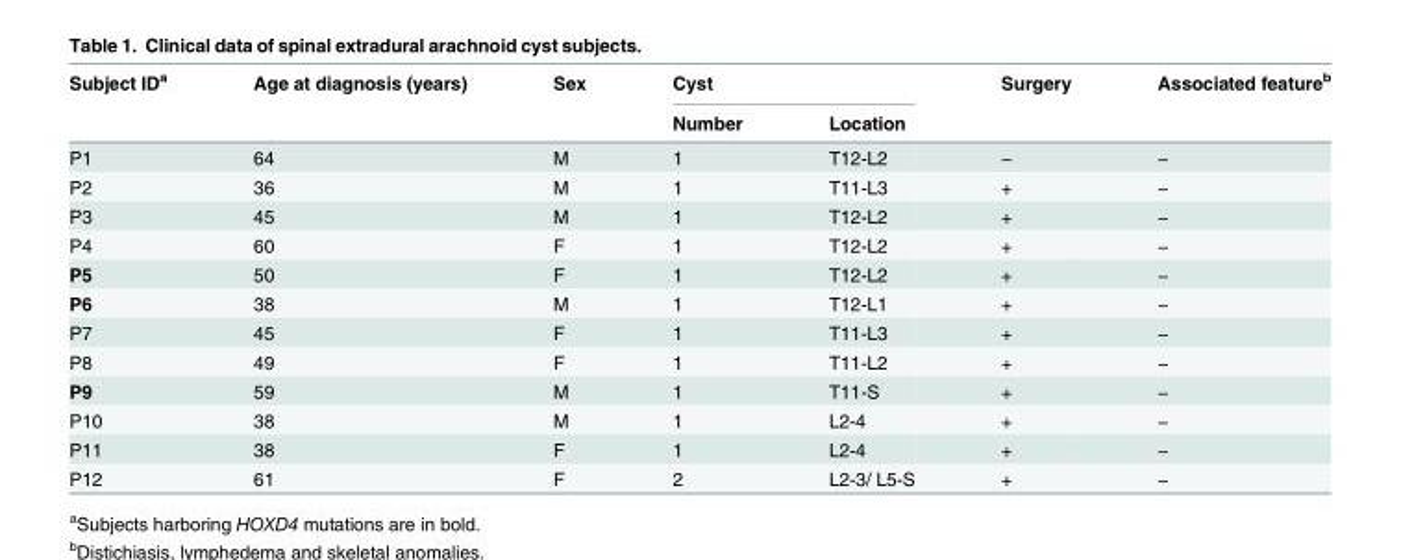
<table><thead><tr><td rowspan="2">Subject ID<sup>a</sup></td><td rowspan="2">Age at diagnosis (years)</td><td rowspan="2">Sex</td><td colspan="2">Cyst</td><td rowspan="2">Surgery</td><td rowspan="2">Associated feature<sup>b</sup></td></tr><tr><td>Number</td><td>Location</td></tr></thead><tbody><tr><td>P1</td><td>64</td><td>M</td><td>1</td><td>T12-L2</td><td>−</td><td>−</td></tr><tr><td>P2</td><td>36</td><td>M</td><td>1</td><td>T11-L3</td><td>+</td><td>−</td></tr><tr><td>P3</td><td>45</td><td>M</td><td>1</td><td>T12-L2</td><td>+</td><td>−</td></tr><tr><td>P4</td><td>60</td><td>F</td><td>1</td><td>T12-L2</td><td>+</td><td>−</td></tr><tr><td>P5</td><td>50</td><td>F</td><td>1</td><td>T12-L2</td><td>+</td><td>−</td></tr><tr><td>P6</td><td>38</td><td>M</td><td>1</td><td>T12-L1</td><td>+</td><td>−</td></tr><tr><td>P7</td><td>45</td><td>F</td><td>1</td><td>T11-L3</td><td>+</td><td>−</td></tr><tr><td>P8</td><td>49</td><td>F</td><td>1</td><td>T11-L2</td><td>+</td><td>−</td></tr><tr><td>P9</td><td>59</td><td>M</td><td>1</td><td>T11-S</td><td>+</td><td>−</td></tr><tr><td>P10</td><td>38</td><td>M</td><td>1</td><td>L2-4</td><td>+</td><td>−</td></tr><tr><td>P11</td><td>38</td><td>F</td><td>1</td><td>L2-4</td><td>+</td><td>−</td></tr><tr><td>P12</td><td>61</td><td>F</td><td>2</td><td>L2-3/ L5-S</td><td>+</td><td>−</td></tr></tbody></table>